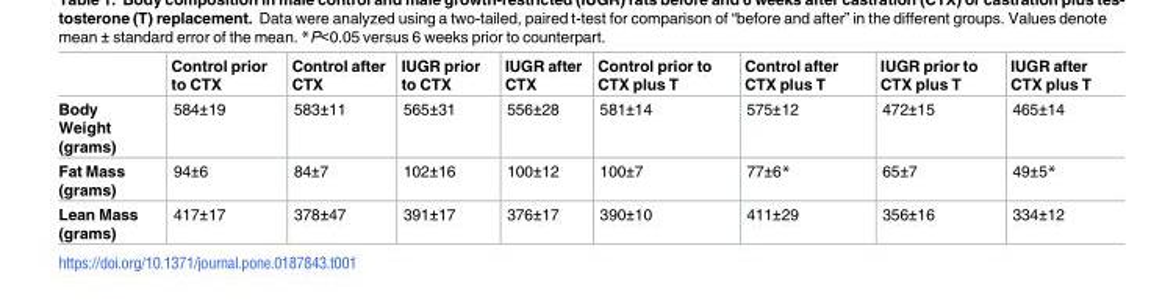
<table><thead><tr><td></td><td>Control prior to CTX</td><td>Control after CTX</td><td>IUGR prior to CTX</td><td>IUGR after CTX</td><td>Control prior to CTX plus T</td><td>Control after CTX plus T</td><td>IUGR prior to CTX plus T</td><td>IUGR after CTX plus T</td></tr></thead><tbody><tr><td>Body Weight (grams)</td><td>584±19</td><td>583±11</td><td>565±31</td><td>556±28</td><td>581±14</td><td>575±12</td><td>472±15</td><td>465±14</td></tr><tr><td>Fat Mass (grams)</td><td>94±6</td><td>84±7</td><td>102±16</td><td>100±12</td><td>100±7</td><td>77±6*</td><td>65±7</td><td>49±5*</td></tr><tr><td>Lean Mass (grams)</td><td>417±17</td><td>378±47</td><td>391±17</td><td>376±17</td><td>390±10</td><td>411±29</td><td>356±16</td><td>334±12</td></tr></tbody></table>